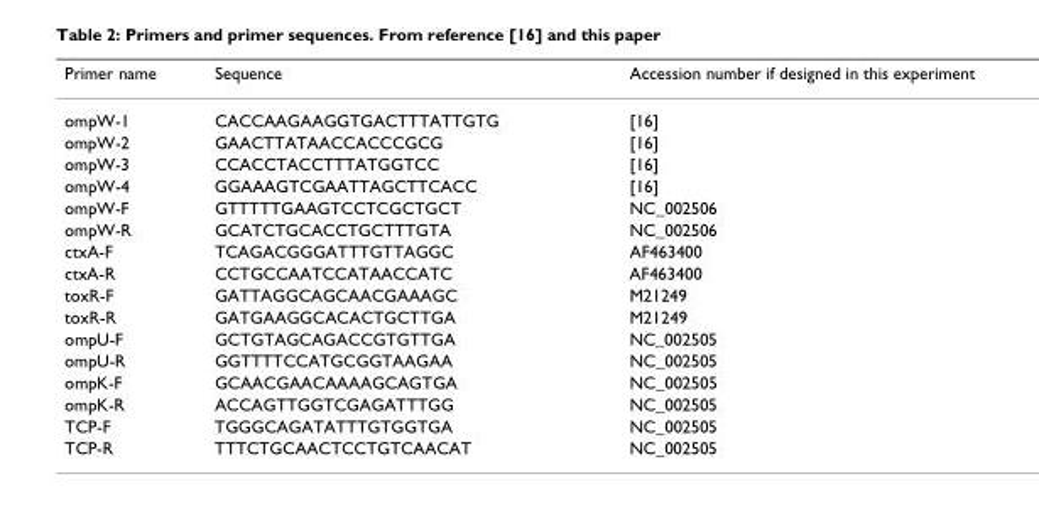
<table><thead><tr><td>Primer name</td><td>Sequence</td><td>Accession number if designed in this experiment</td></tr></thead><tbody><tr><td>ompW-1</td><td>CACCAAGAAGGTGACTTTATTGTG</td><td>[16]</td></tr><tr><td>ompW-2</td><td>GAACTTATAACCACCCGCG</td><td>[16]</td></tr><tr><td>ompW-3</td><td>CCACCTACCTTTATGGTCC</td><td>[16]</td></tr><tr><td>ompW-4</td><td>GGAAAGTCGAATTAGCTTCACC</td><td>[16]</td></tr><tr><td>ompW-F</td><td>GTTTTTGAAGTCCTCGCTGCT</td><td>NC_002506</td></tr><tr><td>ompW-R</td><td>GCATCTGCACCTGCTTTGTA</td><td>NC_002506</td></tr><tr><td>ctxA-F</td><td>TCAGACGGGATTTGTTAGGC</td><td>AF463400</td></tr><tr><td>ctxA-R</td><td>CCTGCCAATCCATAACCATC</td><td>AF463400</td></tr><tr><td>toxR-F</td><td>GATTAGGCAGCAACGAAAGC</td><td>M21249</td></tr><tr><td>toxR-R</td><td>GATGAAGGCACACTGCTTGA</td><td>M21249</td></tr><tr><td>ompU-F</td><td>GCTGTAGCAGACCGTGTTGA</td><td>NC_002505</td></tr><tr><td>ompU-R</td><td>GGTTTTCCATGCGGTAAGAA</td><td>NC_002505</td></tr><tr><td>ompK-F</td><td>GCAACGAACAAAAGCAGTGA</td><td>NC_002505</td></tr><tr><td>ompK-R</td><td>ACCAGTTGGTCGAGATTTGG</td><td>NC_002505</td></tr><tr><td>TCP-F</td><td>TGGGCAGATATTTGTGGTGA</td><td>NC_002505</td></tr><tr><td>TCP-R</td><td>TTTCTGCAACTCCTGTCAACAT</td><td>NC_002505</td></tr></tbody></table>